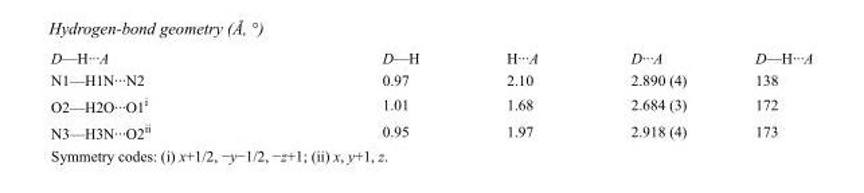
<table><tbody><tr><td>D—H···A</td><td>D—H</td><td>H···A</td><td>D···A</td><td>D—H···A</td></tr><tr><td>N1—H1N···N2</td><td>0.97</td><td>2.10</td><td>2.890 (4)</td><td>138</td></tr><tr><td>O2—H2O···O1<sup>i</sup></td><td>1.01</td><td>1.68</td><td>2.684 (3)</td><td>172</td></tr><tr><td>N3—H3N···O2<sup>ii</sup></td><td>0.95</td><td>1.97</td><td>2.918 (4)</td><td>173</td></tr></tbody></table>